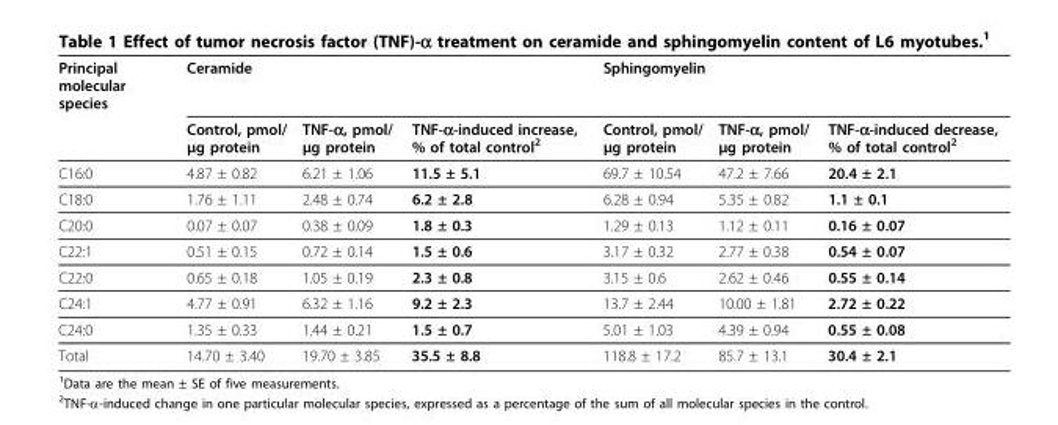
<table><thead><tr><td rowspan="2">Principal molecular species</td><td colspan="3">Ceramide</td><td colspan="3">Sphingomyelin</td></tr><tr><td>Control, pmol/ μg protein</td><td>TNF-α, pmol/ μg protein</td><td>TNF-α-induced increase, % of total control<sup>2</sup></td><td>Control, pmol/ μg protein</td><td>TNF-α, pmol/ μg protein</td><td>TNF-α-induced decrease, % of total control<sup>2</sup></td></tr></thead><tbody><tr><td>C16:0</td><td>4.87 ± 0.82</td><td>6.21 ± 1.06</td><td>11.5 ± 5.1</td><td>69.7 ± 10.54</td><td>47.2 ± 7.66</td><td>20.4 ± 2.1</td></tr><tr><td>C18:0</td><td>1.76 ± 1.11</td><td>2.48 ± 0.74</td><td>6.2 ± 2.8</td><td>6.28 ± 0.94</td><td>5.35 ± 0.82</td><td>1.1 ± 0.1</td></tr><tr><td>C20:0</td><td>0.07 ± 0.07</td><td>0.38 ± 0.09</td><td>1.8 ± 0.3</td><td>1.29 ± 0.13</td><td>1.12 ± 0.11</td><td>0.16 ± 0.07</td></tr><tr><td>C22:1</td><td>0.51 ± 0.15</td><td>0.72 ± 0.14</td><td>1.5 ± 0.6</td><td>3.17 ± 0.32</td><td>2.77 ± 0.38</td><td>0.54 ± 0.07</td></tr><tr><td>C22:0</td><td>0.65 ± 0.18</td><td>1.05 ± 0.19</td><td>2.3 ± 0.8</td><td>3.15 ± 0.6</td><td>2.62 ± 0.46</td><td>0.55 ± 0.14</td></tr><tr><td>C24:1</td><td>4.77 ± 0.91</td><td>6.32 ± 1.16</td><td>9.2 ± 2.3</td><td>13.7 ± 2.44</td><td>10.00 ± 1.81</td><td>2.72 ± 0.22</td></tr><tr><td>C24:0</td><td>1.35 ± 0.33</td><td>1.44 ± 0.21</td><td>1.5 ± 0.7</td><td>5.01 ± 1.03</td><td>4.39 ± 0.94</td><td>0.55 ± 0.08</td></tr><tr><td>Total</td><td>14.70 ± 3.40</td><td>19.70 ± 3.85</td><td>35.5 ± 8.8</td><td>118.8 ± 17.2</td><td>85.7 ± 13.1</td><td>30.4 ± 2.1</td></tr></tbody></table>